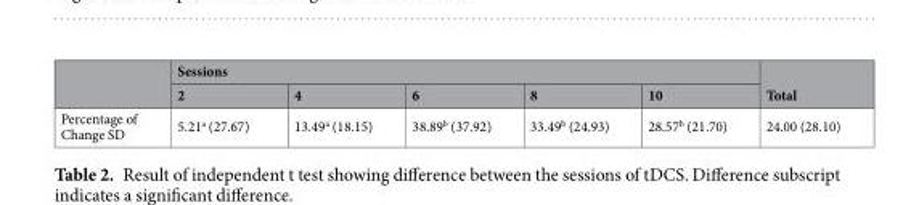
<table><thead><tr><td rowspan="2"></td><td colspan="5">Sessions</td><td rowspan="2">Total</td></tr><tr><td>2</td><td>4</td><td>6</td><td>8</td><td>10</td></tr></thead><tbody><tr><td>Percentage of Change SD</td><td>5.21<sup>a</sup> (27.67)</td><td>13.49<sup>a</sup> (18.15)</td><td>38.89<sup>b</sup> (37.92)</td><td>33.49<sup>b</sup> (24.93)</td><td>28.57<sup>b</sup> (21.70)</td><td>24.00 (28.10)</td></tr></tbody></table>